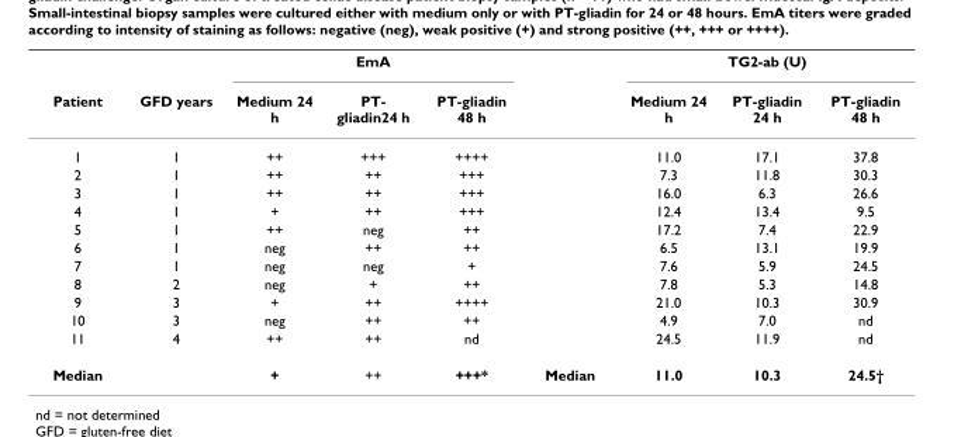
<table><thead><tr><td rowspan="2">Patient</td><td rowspan="2">GFD years</td><td colspan="3">EmA</td><td rowspan="2"></td><td colspan="3">TG2-ab (U)</td></tr><tr><td>Medium 24 h</td><td>PT- gliadin24 h</td><td>PT-gliadin 48 h</td><td>Medium 24 h</td><td>PT-gliadin 24 h</td><td>PT-gliadin 48 h</td></tr></thead><tbody><tr><td>1</td><td>1</td><td>++</td><td>+++</td><td>++++</td><td></td><td>11.0</td><td>17.1</td><td>37.8</td></tr><tr><td>2</td><td>1</td><td>++</td><td>++</td><td>+++</td><td></td><td>7.3</td><td>11.8</td><td>30.3</td></tr><tr><td>3</td><td>1</td><td>++</td><td>++</td><td>+++</td><td></td><td>16.0</td><td>6.3</td><td>26.6</td></tr><tr><td>4</td><td>1</td><td>+</td><td>++</td><td>+++</td><td></td><td>12.4</td><td>13.4</td><td>9.5</td></tr><tr><td>5</td><td>1</td><td>++</td><td>neg</td><td>++</td><td></td><td>17.2</td><td>7.4</td><td>22.9</td></tr><tr><td>6</td><td>1</td><td>neg</td><td>++</td><td>++</td><td></td><td>6.5</td><td>13.1</td><td>19.9</td></tr><tr><td>7</td><td>1</td><td>neg</td><td>neg</td><td>+</td><td></td><td>7.6</td><td>5.9</td><td>24.5</td></tr><tr><td>8</td><td>2</td><td>neg</td><td>+</td><td>++</td><td></td><td>7.8</td><td>5.3</td><td>14.8</td></tr><tr><td>9</td><td>3</td><td>+</td><td>++</td><td>++++</td><td></td><td>21.0</td><td>10.3</td><td>30.9</td></tr><tr><td>10</td><td>3</td><td>neg</td><td>++</td><td>++</td><td></td><td>4.9</td><td>7.0</td><td>nd</td></tr><tr><td>11</td><td>4</td><td>++</td><td>++</td><td>nd</td><td></td><td>24.5</td><td>11.9</td><td>nd</td></tr><tr><td>Median</td><td></td><td>+</td><td>++</td><td>+++*</td><td>Median</td><td>11.0</td><td>10.3</td><td>24.5†</td></tr></tbody></table>